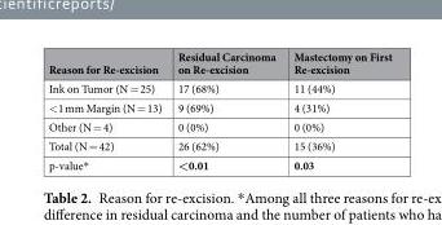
<table><thead><tr><td>Reason for Re-excision</td><td>Residual Carcinoma on Re-excision</td><td>Mastectomy on First Re-excision</td></tr></thead><tbody><tr><td>Ink on Tumor (N = 25)</td><td>17 (68%)</td><td>11 (44%)</td></tr><tr><td>&lt;1 mm Margin (N = 13)</td><td>9 (69%)</td><td>4 (31%)</td></tr><tr><td>Other (N = 4)</td><td>0 (0%)</td><td>0 (0%)</td></tr><tr><td>Total (N = 42)</td><td>26 (62%)</td><td>15 (36%)</td></tr><tr><td>p-value*</td><td>&lt;0.01</td><td>0.03</td></tr></tbody></table>